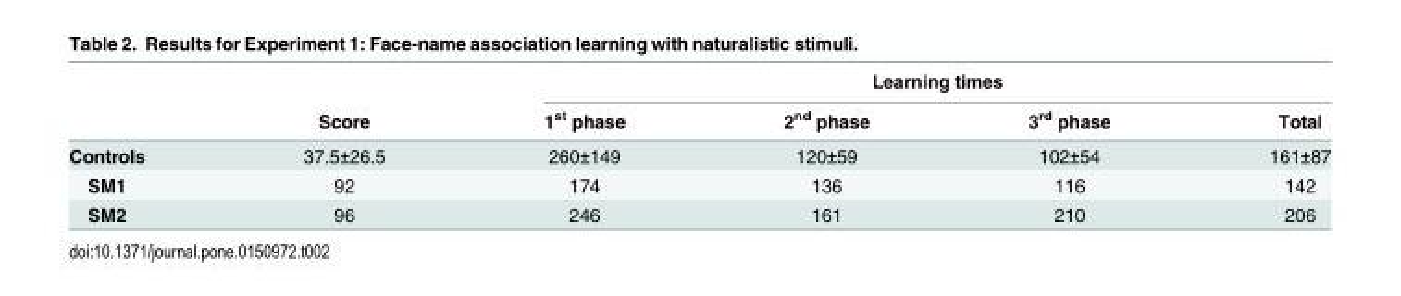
<table><thead><tr><td rowspan="2"></td><td rowspan="2">Score</td><td colspan="4">Learning times</td></tr><tr><td>1<sup>st</sup> phase</td><td>2<sup>nd</sup> phase</td><td>3<sup>rd</sup> phase</td><td>Total</td></tr></thead><tbody><tr><td>Controls</td><td>37.5±26.5</td><td>260±149</td><td>120±59</td><td>102±54</td><td>161±87</td></tr><tr><td>SM1</td><td>92</td><td>174</td><td>136</td><td>116</td><td>142</td></tr><tr><td>SM2</td><td>96</td><td>246</td><td>161</td><td>210</td><td>206</td></tr></tbody></table>